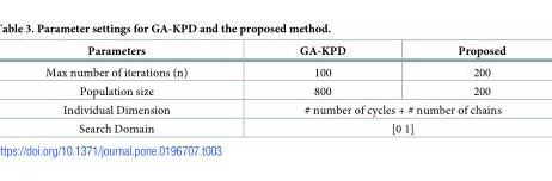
<table><thead><tr><td>Parameters</td><td>GA-KPD</td><td>Proposed</td></tr></thead><tbody><tr><td>Max number of iterations (n)</td><td>100</td><td>200</td></tr><tr><td>Population size</td><td>800</td><td>200</td></tr><tr><td>Individual Dimension</td><td colspan="2"># number of cycles + # number of chains</td></tr><tr><td>Search Domain</td><td colspan="2">[0 1]</td></tr></tbody></table>